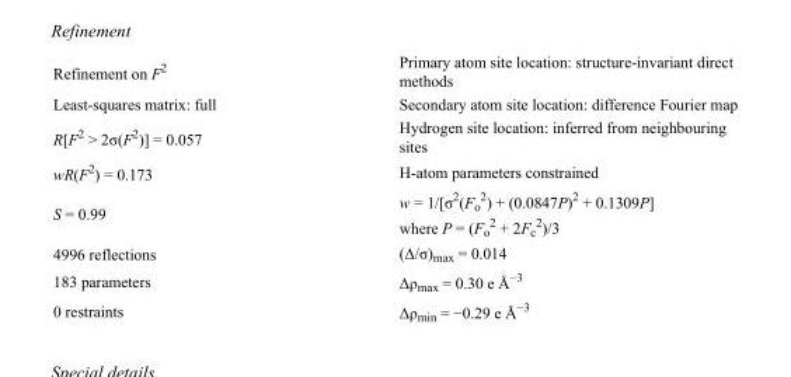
<table><tbody><tr><td>Refinement on F<sup>2</sup></td><td>Primary atom site location: structure-invariant direct methods</td></tr><tr><td>Least-squares matrix: full</td><td>Secondary atom site location: difference Fourier map</td></tr><tr><td>R[F<sup>2</sup> &gt; 2σ(F<sup>2</sup>)] = 0.057</td><td>Hydrogen site location: inferred from neighbouring sites</td></tr><tr><td>wR(F<sup>2</sup>) = 0.173</td><td>H-atom parameters constrained</td></tr><tr><td>S = 0.99</td><td>w = 1/[σ<sup>2</sup>(F<sub>o</sub> <sup>2</sup>) + (0.0847P)<sup>2</sup> + 0.1309P] where P = (F<sub>o</sub> <sup>2</sup> + 2F<sub>c</sub> <sup>2</sup>)/3</td></tr><tr><td>4996 reflections</td><td>(Δ/σ)<sub>max</sub> = 0.014</td></tr><tr><td>183 parameters</td><td>Δρ<sub>max</sub> = 0.30 e Å<sup>−3</sup></td></tr><tr><td>0 restraints</td><td>Δρ<sub>min</sub> = −0.29 e Å<sup>−3</sup></td></tr></tbody></table>